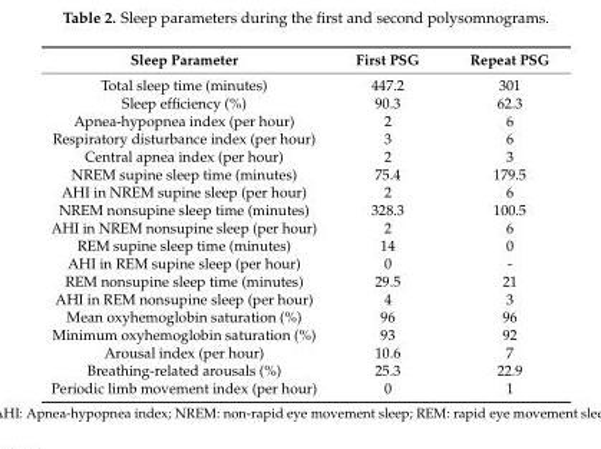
<table><thead><tr><td>Sleep Parameter</td><td>First PSG</td><td>Repeat PSG</td></tr></thead><tbody><tr><td>Total sleep time (minutes)</td><td>447.2</td><td>301</td></tr><tr><td>Sleep efficiency (%)</td><td>90.3</td><td>62.3</td></tr><tr><td>Apnea-hypopnea index (per hour)</td><td>2</td><td>6</td></tr><tr><td>Respiratory disturbance index (per hour)</td><td>3</td><td>6</td></tr><tr><td>Central apnea index (per hour)</td><td>2</td><td>3</td></tr><tr><td>NREM supine sleep time (minutes)</td><td>75.4</td><td>179.5</td></tr><tr><td>AHI in NREM supine sleep (per hour)</td><td>2</td><td>6</td></tr><tr><td>NREM nonsupine sleep time (minutes)</td><td>328.3</td><td>100.5</td></tr><tr><td>AHI in NREM nonsupine sleep (per hour)</td><td>2</td><td>6</td></tr><tr><td>REM supine sleep time (minutes)</td><td>14</td><td>0</td></tr><tr><td>AHI in REM supine sleep (per hour)</td><td>0</td><td>-</td></tr><tr><td>REM nonsupine sleep time (minutes)</td><td>29.5</td><td>21</td></tr><tr><td>AHI in REM nonsupine sleep (per hour)</td><td>4</td><td>3</td></tr><tr><td>Mean oxyhemoglobin saturation (%)</td><td>96</td><td>96</td></tr><tr><td>Minimum oxyhemoglobin saturation (%)</td><td>93</td><td>92</td></tr><tr><td>Arousal index (per hour)</td><td>10.6</td><td>7</td></tr><tr><td>Breathing-related arousals (%)</td><td>25.3</td><td>22.9</td></tr><tr><td>Periodic limb movement index (per hour)</td><td>0</td><td>1</td></tr></tbody></table>